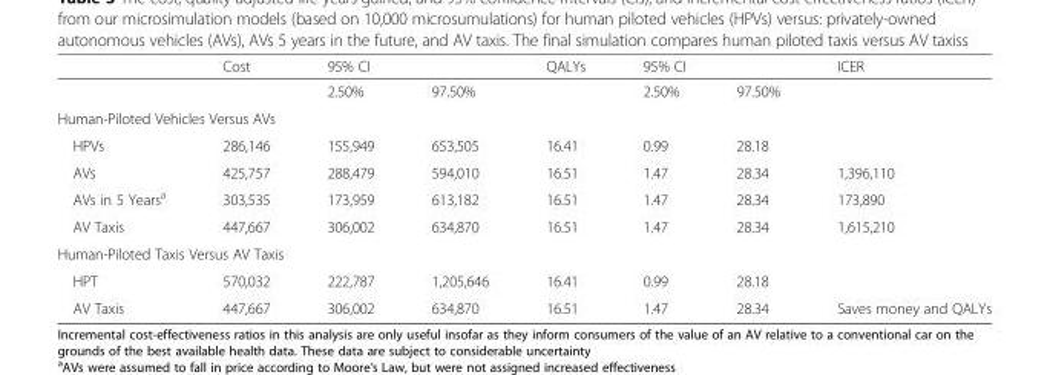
<table><thead><tr><td rowspan="2"></td><td rowspan="2">Cost</td><td colspan="2">95% CI</td><td rowspan="2">QALYs</td><td colspan="2">95% CI</td><td rowspan="2">ICER</td></tr><tr><td>2.50%</td><td>97.50%</td><td>2.50%</td><td>97.50%</td></tr></thead><tbody><tr><td colspan="8">Human-Piloted Vehicles Versus AVs</td></tr><tr><td>HPVs</td><td>286,146</td><td>155,949</td><td>653,505</td><td>16.41</td><td>0.99</td><td>28.18</td><td></td></tr><tr><td>AVs</td><td>425,757</td><td>288,479</td><td>594,010</td><td>16.51</td><td>1.47</td><td>28.34</td><td>1,396,110</td></tr><tr><td>AVs in 5 Years<sup>a</sup></td><td>303,535</td><td>173,959</td><td>613,182</td><td>16.51</td><td>1.47</td><td>28.34</td><td>173,890</td></tr><tr><td>AV Taxis</td><td>447,667</td><td>306,002</td><td>634,870</td><td>16.51</td><td>1.47</td><td>28.34</td><td>1,615,210</td></tr><tr><td colspan="8">Human-Piloted Taxis Versus AV Taxis</td></tr><tr><td>HPT</td><td>570,032</td><td>222,787</td><td>1,205,646</td><td>16.41</td><td>0.99</td><td>28.18</td><td></td></tr><tr><td>AV Taxis</td><td>447,667</td><td>306,002</td><td>634,870</td><td>16.51</td><td>1.47</td><td>28.34</td><td>Saves money and QALYs</td></tr></tbody></table>